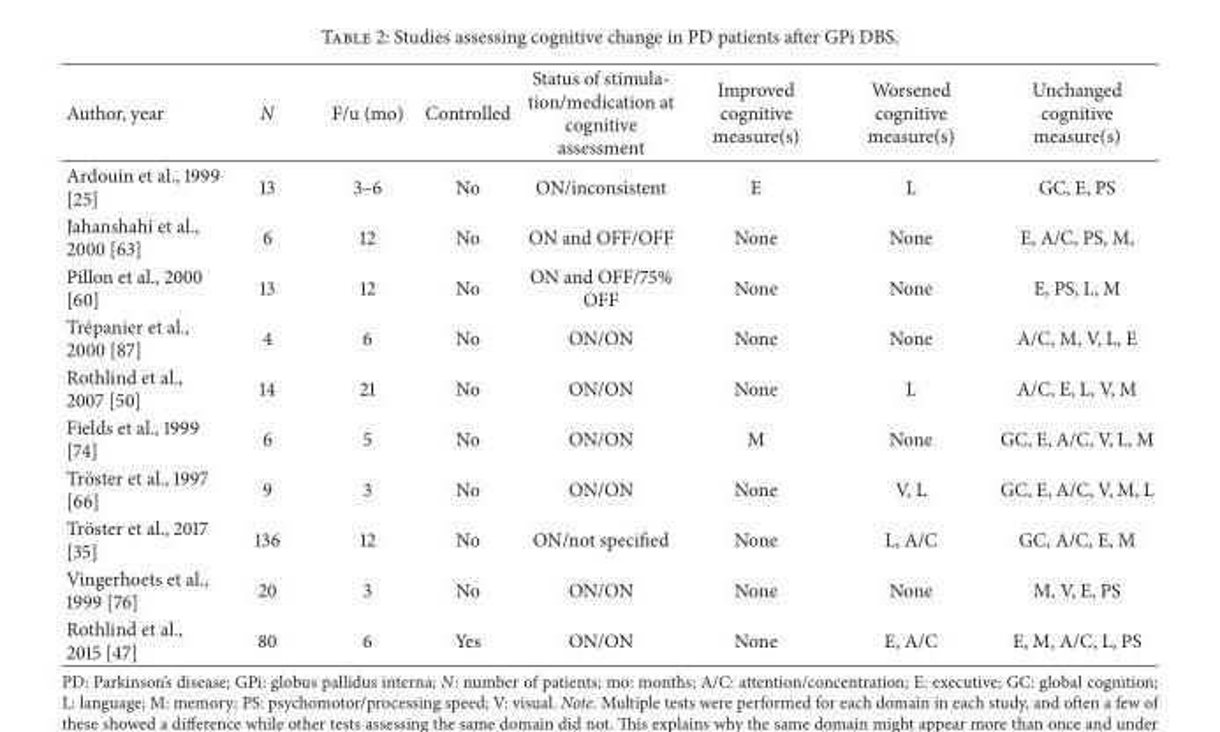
<table><thead><tr><td>Author, year</td><td>N</td><td>F/u (mo)</td><td>Controlled</td><td>Status of stimula- tion/medication at cognitive assessment</td><td>Improved cognitive measure(s)</td><td>Worsened cognitive measure(s)</td><td>Unchanged cognitive measure(s)</td></tr></thead><tbody><tr><td>Ardouin et al., 1999 [25]</td><td>13</td><td>3–6</td><td>No</td><td>ON/inconsistent</td><td>E</td><td>L</td><td>GC, E, PS</td></tr><tr><td>Jahanshahi et al., 2000 [63]</td><td>6</td><td>12</td><td>No</td><td>ON and OFF/OFF</td><td>None</td><td>None</td><td>E, A/C, PS, M,</td></tr><tr><td>Pillon et al., 2000 [60]</td><td>13</td><td>12</td><td>No</td><td>ON and OFF/75% OFF</td><td>None</td><td>None</td><td>E, PS, L, M</td></tr><tr><td>Tr´epanier et al., 2000 [87]</td><td>4</td><td>6</td><td>No</td><td>ON/ON</td><td>None</td><td>None</td><td>A/C, M, V, L, E</td></tr><tr><td>Rothlind et al., 2007 [50]</td><td>14</td><td>21</td><td>No</td><td>ON/ON</td><td>None</td><td>L</td><td>A/C, E, L, V, M</td></tr><tr><td>Fields et al., 1999 [74]</td><td>6</td><td>5</td><td>No</td><td>ON/ON</td><td>M</td><td>None</td><td>GC, E, A/C, V, L, M</td></tr><tr><td>Tr¨oster et al., 1997 [66]</td><td>9</td><td>3</td><td>No</td><td>ON/ON</td><td>None</td><td>V, L</td><td>GC, E, A/C, V, M, L</td></tr><tr><td>Tr¨oster et al., 2017 [35]</td><td>136</td><td>12</td><td>No</td><td>ON/not specified</td><td>None</td><td>L, A/C</td><td>GC, A/C, E, M</td></tr><tr><td>Vingerhoets et al., 1999 [76]</td><td>20</td><td>3</td><td>No</td><td>ON/ON</td><td>None</td><td>None</td><td>M, V, E, PS</td></tr><tr><td>Rothlind et al., 2015 [47]</td><td>80</td><td>6</td><td>Yes</td><td>ON/ON</td><td>None</td><td>E, A/C</td><td>E, M, A/C, L, PS</td></tr></tbody></table>